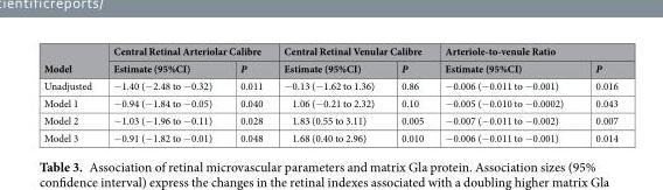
<table><thead><tr><td rowspan="2">Model</td><td colspan="2">Central Retinal Arteriolar Calibre</td><td colspan="2">Central Retinal Venular Calibre</td><td colspan="2">Arteriole-to-venule Ratio</td></tr><tr><td>Estimate (95%CI)</td><td>P</td><td>Estimate (95%CI)</td><td>P</td><td>Estimate (95%CI)</td><td>P</td></tr></thead><tbody><tr><td>Unadjusted</td><td>−1.40 (−2.48 to −0.32)</td><td>0.011</td><td>−0.13 (−1.62 to 1.36)</td><td>0.86</td><td>−0.006 (−0.011 to −0.001)</td><td>0.016</td></tr><tr><td>Model 1</td><td>−0.94 (−1.84 to −0.05)</td><td>0.040</td><td>1.06 (−0.21 to 2.32)</td><td>0.10</td><td>−0.005 (−0.010 to −0.0002)</td><td>0.043</td></tr><tr><td>Model 2</td><td>−1.03 (−1.96 to −0.11)</td><td>0.028</td><td>1.83 (0.55 to 3.11)</td><td>0.005</td><td>−0.007 (−0.011 to −0.002)</td><td>0.007</td></tr><tr><td>Model 3</td><td>−0.91 (−1.82 to −0.01)</td><td>0.048</td><td>1.68 (0.40 to 2.96)</td><td>0.010</td><td>−0.006 (−0.011 to −0.001)</td><td>0.014</td></tr></tbody></table>